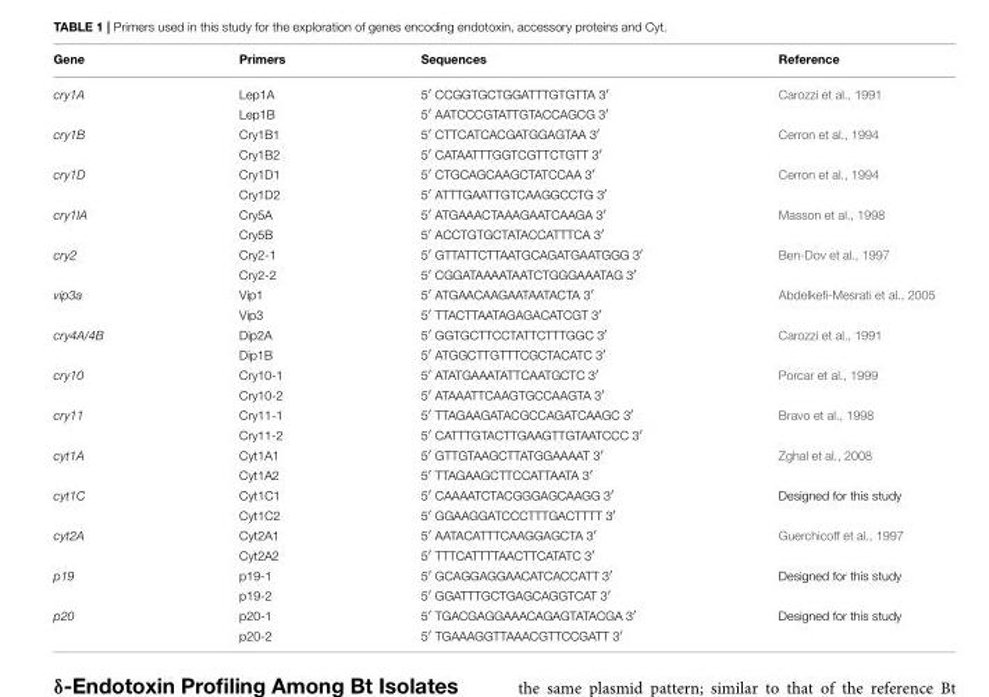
<table><thead><tr><td>Gene</td><td>Primers</td><td>Sequences</td><td>Reference</td></tr></thead><tbody><tr><td rowspan="2">cry1A</td><td>Lep1A</td><td>5′ CCGGTGCTGGATTTGTGTTA 3′</td><td>Carozzi et al., 1991</td></tr><tr><td>Lep1B</td><td>5′ AATCCCGTATTGTACCAGCG 3′</td><td></td></tr><tr><td rowspan="2">cry1B</td><td>Cry1B1</td><td>5′ CTTCATCACGATGGAGTAA 3′</td><td>Cerron et al., 1994</td></tr><tr><td>Cry1B2</td><td>5′ CATAATTTGGTCGTTCTGTT 3′</td><td></td></tr><tr><td rowspan="2">cry1D</td><td>Cry1D1</td><td>5′ CTGCAGCAAGCTATCCAA 3′</td><td>Cerron et al., 1994</td></tr><tr><td>Cry1D2</td><td>5′ ATTTGAATTGTCAAGGCCTG 3′</td><td></td></tr><tr><td rowspan="2">cry1IA</td><td>Cry5A</td><td>5′ ATGAAACTAAAGAATCAAGA 3′</td><td>Masson et al., 1998</td></tr><tr><td>Cry5B</td><td>5′ ACCTGTGCTATACCATTTCA 3′</td><td></td></tr><tr><td rowspan="2">cry2</td><td>Cry2-1</td><td>5′ GTTATTCTTAATGCAGATGAATGGG 3′</td><td>Ben-Dov et al., 1997</td></tr><tr><td>Cry2-2</td><td>5′ CGGATAAAATAATCTGGGAAATAG 3′</td><td></td></tr><tr><td rowspan="2">vip3a</td><td>Vip1</td><td>5′ ATGAACAAGAATAATACTA 3′</td><td>Abdelkefi-Mesrati et al., 2005</td></tr><tr><td>Vip3</td><td>5′ TTACTTAATAGAGACATCGT 3′</td><td></td></tr><tr><td rowspan="2">cry4A/4B</td><td>Dip2A</td><td>5′ GGTGCTTCCTATTCTTTGGC 3′</td><td>Carozzi et al., 1991</td></tr><tr><td>Dip1B</td><td>5′ ATGGCTTGTTTCGCTACATC 3′</td><td></td></tr><tr><td rowspan="2">cry10</td><td>Cry10-1</td><td>5′ ATATGAAATATTCAATGCTC 3′</td><td>Porcar et al., 1999</td></tr><tr><td>Cry10-2</td><td>5′ ATAAATTCAAGTGCCAAGTA 3′</td><td></td></tr><tr><td rowspan="2">cry11</td><td>Cry11-1</td><td>5′ TTAGAAGATACGCCAGATCAAGC 3′</td><td>Bravo et al., 1998</td></tr><tr><td>Cry11-2</td><td>5′ CATTTGTACTTGAAGTTGTAATCCC 3′</td><td></td></tr><tr><td rowspan="2">cyt1A</td><td>Cyt1A1</td><td>5′ GTTGTAAGCTTATGGAAAAT 3′</td><td>Zghal et al., 2008</td></tr><tr><td>Cyt1A2</td><td>5′ TTAGAAGCTTCCATTAATA 3′</td><td></td></tr><tr><td rowspan="2">cyt1C</td><td>Cyt1C1</td><td>5′ CAAAATCTACGGGAGCAAGG 3′</td><td>Designed for this study</td></tr><tr><td>Cyt1C2</td><td>5′ GGAAGGATCCCTTTGACTTTT 3′</td><td></td></tr><tr><td rowspan="2">cyt2A</td><td>Cyt2A1</td><td>5′ AATACATTTCAAGGAGCTA 3′</td><td>Guerchicoff et al., 1997</td></tr><tr><td>Cyt2A2</td><td>5′ TTTCATTTTAACTTCATATC 3′</td><td></td></tr><tr><td rowspan="2">p19</td><td>p19-1</td><td>5′ GCAGGAGGAACATCACCATT 3′</td><td>Designed for this study</td></tr><tr><td>p19-2</td><td>5′ GGATTTGCTGAGCAGGTCAT 3′</td><td></td></tr><tr><td rowspan="2">p20</td><td>p20-1</td><td>5′ TGACGAGGAAACAGAGTATACGA 3′</td><td>Designed for this study</td></tr><tr><td>p20-2</td><td>5′ TGAAAGGTTAAACGTTCCGATT 3′</td><td></td></tr></tbody></table>